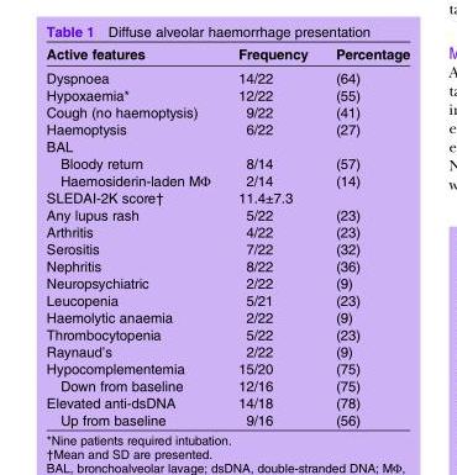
<table><thead><tr><td>Active features</td><td>Frequency</td><td>Percentage</td></tr></thead><tbody><tr><td>Dyspnoea</td><td>14/22</td><td>(64)</td></tr><tr><td>Hypoxaemia*</td><td>12/22</td><td>(55)</td></tr><tr><td>Cough (no haemoptysis)</td><td>9/22</td><td>(41)</td></tr><tr><td>Haemoptysis</td><td>6/22</td><td>(27)</td></tr><tr><td colspan="3">BAL</td></tr><tr><td>Bloody return</td><td>8/14</td><td>(57)</td></tr><tr><td>Haemosiderin-laden MΦ</td><td>2/14</td><td>(14)</td></tr><tr><td>SLEDAI-2K score†</td><td colspan="2">11.4±7.3</td></tr><tr><td>Any lupus rash</td><td>5/22</td><td>(23)</td></tr><tr><td>Arthritis</td><td>4/22</td><td>(23)</td></tr><tr><td>Serositis</td><td>7/22</td><td>(32)</td></tr><tr><td>Nephritis</td><td>8/22</td><td>(36)</td></tr><tr><td>Neuropsychiatric</td><td>2/22</td><td>(9)</td></tr><tr><td>Leucopenia</td><td>5/21</td><td>(23)</td></tr><tr><td>Haemolytic anaemia</td><td>2/22</td><td>(9)</td></tr><tr><td>Thrombocytopenia</td><td>5/22</td><td>(23)</td></tr><tr><td>Raynaud’s</td><td>2/22</td><td>(9)</td></tr><tr><td>Hypocomplementemia</td><td>15/20</td><td>(75)</td></tr><tr><td>Down from baseline</td><td>12/16</td><td>(75)</td></tr><tr><td>Elevated anti-dsDNA</td><td>14/18</td><td>(78)</td></tr><tr><td>Up from baseline</td><td>9/16</td><td>(56)</td></tr></tbody></table>